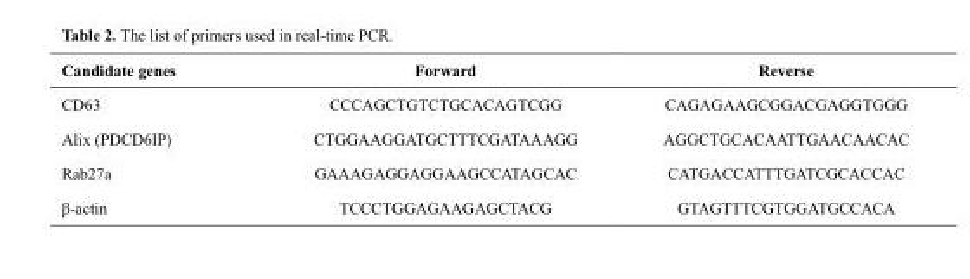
<table><thead><tr><td>Candidate genes</td><td>Forward</td><td>Reverse</td></tr></thead><tbody><tr><td>CD63</td><td>CCCAGCTGTCTGCACAGTCGG</td><td>CAGAGAAGCGGACGAGGTGGG</td></tr><tr><td>Alix (PDCD6IP)</td><td>CTGGAAGGATGCTTTCGATAAAGG</td><td>AGGCTGCACAATTGAACAACAC</td></tr><tr><td>Rab27a</td><td>GAAAGAGGAGGAAGCCATAGCAC</td><td>CATGACCATTTGATCGCACCAC</td></tr><tr><td>β-actin</td><td>TCCCTGGAGAAGAGCTACG</td><td>GTAGTTTCGTGGATGCCACA</td></tr></tbody></table>